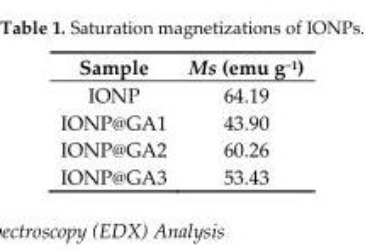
<table><thead><tr><td>Sample</td><td>Ms (emu g<sup>−1</sup>)</td></tr></thead><tbody><tr><td>IONP</td><td>64.19</td></tr><tr><td>IONP@GA1</td><td>43.90</td></tr><tr><td>IONP@GA2</td><td>60.26</td></tr><tr><td>IONP@GA3</td><td>53.43</td></tr></tbody></table>